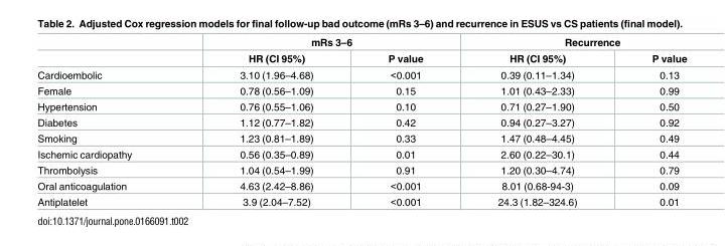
<table><thead><tr><td rowspan="2"></td><td colspan="2">mRs 3–6</td><td colspan="2">Recurrence</td></tr><tr><td>HR (CI 95%)</td><td>P value</td><td>HR (CI 95%)</td><td>P value</td></tr></thead><tbody><tr><td>Cardioembolic</td><td>3.10 (1.96–4.68)</td><td>&lt;0.001</td><td>0.39 (0.11–1.34)</td><td>0.13</td></tr><tr><td>Female</td><td>0.78 (0.56–1.09)</td><td>0.15</td><td>1.01 (0.43–2.33)</td><td>0.99</td></tr><tr><td>Hypertension</td><td>0.76 (0.55–1.06)</td><td>0.10</td><td>0.71 (0.27–1.90)</td><td>0.50</td></tr><tr><td>Diabetes</td><td>1.12 (0.77–1.82)</td><td>0.42</td><td>0.94 (0.27–3.27)</td><td>0.92</td></tr><tr><td>Smoking</td><td>1.23 (0.81–1.89)</td><td>0.33</td><td>1.47 (0.48–4.45)</td><td>0.49</td></tr><tr><td>Ischemic cardiopathy</td><td>0.56 (0.35–0.89)</td><td>0.01</td><td>2.60 (0.22–30.1)</td><td>0.44</td></tr><tr><td>Thrombolysis</td><td>1.04 (0.54–1.99)</td><td>0.91</td><td>1.20 (0.30–4.74)</td><td>0.79</td></tr><tr><td>Oral anticoagulation</td><td>4.63 (2.42–8.86)</td><td>&lt;0.001</td><td>8.01 (0.68-94-3)</td><td>0.09</td></tr><tr><td>Antiplatelet</td><td>3.9 (2.04–7.52)</td><td>&lt;0.001</td><td>24.3 (1.82–324.6)</td><td>0.01</td></tr></tbody></table>